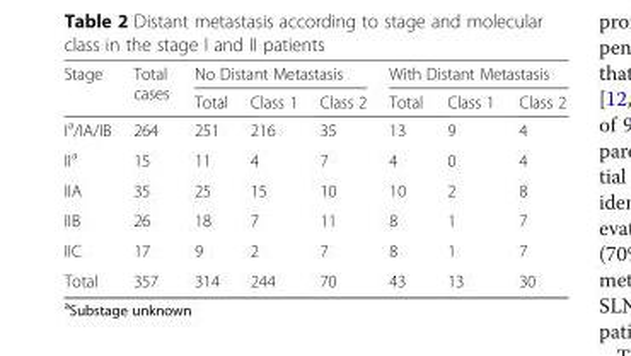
<table><thead><tr><td rowspan="2">Stage</td><td rowspan="2">Total cases</td><td colspan="3">No Distant Metastasis</td><td colspan="3">With Distant Metastasis</td></tr><tr><td>Total</td><td>Class 1</td><td>Class 2</td><td>Total</td><td>Class 1</td><td>Class 2</td></tr></thead><tbody><tr><td>I<sup>a</sup>/IA/IB</td><td>264</td><td>251</td><td>216</td><td>35</td><td>13</td><td>9</td><td>4</td></tr><tr><td>II<sup>a</sup></td><td>15</td><td>11</td><td>4</td><td>7</td><td>4</td><td>0</td><td>4</td></tr><tr><td>IIA</td><td>35</td><td>25</td><td>15</td><td>10</td><td>10</td><td>2</td><td>8</td></tr><tr><td>IIB</td><td>26</td><td>18</td><td>7</td><td>11</td><td>8</td><td>1</td><td>7</td></tr><tr><td>IIC</td><td>17</td><td>9</td><td>2</td><td>7</td><td>8</td><td>1</td><td>7</td></tr><tr><td>Total</td><td>357</td><td>314</td><td>244</td><td>70</td><td>43</td><td>13</td><td>30</td></tr></tbody></table>